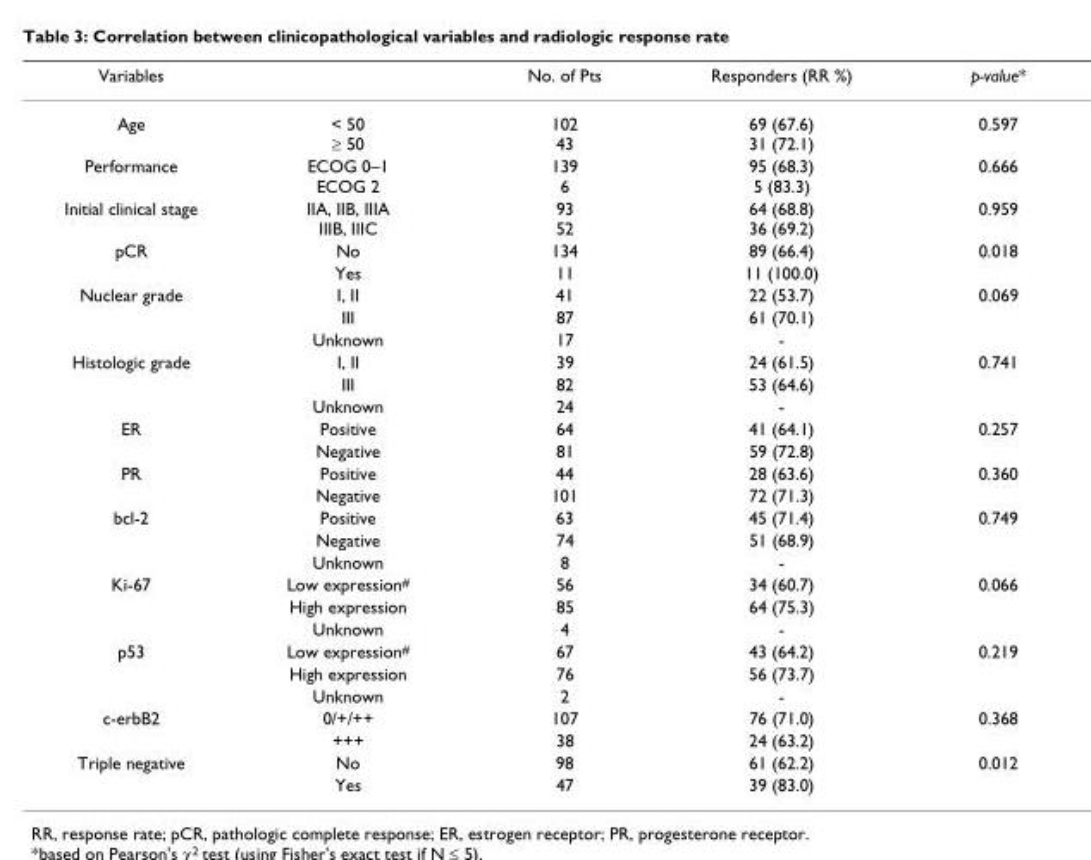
<table><thead><tr><td>Variables</td><td></td><td>No. of Pts</td><td>Responders (RR %)</td><td>p-value*</td></tr></thead><tbody><tr><td>Age</td><td>&lt; 50 ≥ 50</td><td>102 43</td><td>69 (67.6) 31 (72.1)</td><td>0.597</td></tr><tr><td>Performance</td><td>ECOG 0–1 ECOG 2</td><td>139 6</td><td>95 (68.3) 5 (83.3)</td><td>0.666</td></tr><tr><td>Initial clinical stage</td><td>IIA, IIB, IIIA IIIB, IIIC</td><td>93 52</td><td>64 (68.8) 36 (69.2)</td><td>0.959</td></tr><tr><td rowspan="2">pCR</td><td>No</td><td>134</td><td>89 (66.4)</td><td>0.018</td></tr><tr><td>Yes</td><td>11</td><td>11 (100.0)</td><td></td></tr><tr><td rowspan="3">Nuclear grade</td><td>I, II</td><td>41</td><td>22 (53.7)</td><td>0.069</td></tr><tr><td>III</td><td>87</td><td>61 (70.1)</td><td></td></tr><tr><td>Unknown</td><td>17</td><td>-</td><td></td></tr><tr><td rowspan="3">Histologic grade</td><td>I, II</td><td>39</td><td>24 (61.5)</td><td>0.741</td></tr><tr><td>III</td><td>82</td><td>53 (64.6)</td><td></td></tr><tr><td>Unknown</td><td>24</td><td>-</td><td></td></tr><tr><td rowspan="2">ER</td><td>Positive</td><td>64</td><td>41 (64.1)</td><td>0.257</td></tr><tr><td>Negative</td><td>81</td><td>59 (72.8)</td><td></td></tr><tr><td rowspan="2">PR</td><td>Positive</td><td>44</td><td>28 (63.6)</td><td>0.360</td></tr><tr><td>Negative</td><td>101</td><td>72 (71.3)</td><td></td></tr><tr><td rowspan="3">bcl-2</td><td>Positive</td><td>63</td><td>45 (71.4)</td><td>0.749</td></tr><tr><td>Negative</td><td>74</td><td>51 (68.9)</td><td></td></tr><tr><td>Unknown</td><td>8</td><td>-</td><td></td></tr><tr><td rowspan="3">Ki-67</td><td>Low expression<sup>#</sup></td><td>56</td><td>34 (60.7)</td><td>0.066</td></tr><tr><td>High expression</td><td>85</td><td>64 (75.3)</td><td></td></tr><tr><td>Unknown</td><td>4</td><td>-</td><td></td></tr><tr><td rowspan="3">p53</td><td>Low expression<sup>#</sup></td><td>67</td><td>43 (64.2)</td><td>0.219</td></tr><tr><td>High expression</td><td>76</td><td>56 (73.7)</td><td></td></tr><tr><td>Unknown</td><td>2</td><td>-</td><td></td></tr><tr><td rowspan="2">c-erbB2</td><td>0/+/++</td><td>107</td><td>76 (71.0)</td><td>0.368</td></tr><tr><td>+++</td><td>38</td><td>24 (63.2)</td><td></td></tr><tr><td rowspan="2">Triple negative</td><td>No</td><td>98</td><td>61 (62.2)</td><td>0.012</td></tr><tr><td>Yes</td><td>47</td><td>39 (83.0)</td><td></td></tr></tbody></table>